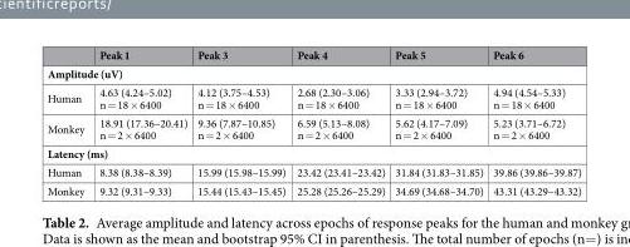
<table><thead><tr><td></td><td>Peak 1</td><td>Peak 3</td><td>Peak 4</td><td>Peak 5</td><td>Peak 6</td></tr></thead><tbody><tr><td colspan="6">Amplitude (uV)</td></tr><tr><td>Human</td><td>4.63 (4.24–5.02) n = 18 × 6400</td><td>4.12 (3.75–4.53) n = 18 × 6400</td><td>2.68 (2.30–3.06) n = 18 × 6400</td><td>3.33 (2.94–3.72) n = 18 × 6400</td><td>4.94 (4.54–5.33) n = 18 × 6400</td></tr><tr><td>Monkey</td><td>18.91 (17.36–20.41) n = 2 × 6400</td><td>9.36 (7.87–10.85) n = 2 × 6400</td><td>6.59 (5.13–8.08) n = 2 × 6400</td><td>5.62 (4.17–7.09) n = 2 × 6400</td><td>5.23 (3.71–6.72) n = 2 × 6400</td></tr><tr><td colspan="6">Latency (ms)</td></tr><tr><td>Human</td><td>8.38 (8.38–8.39)</td><td>15.99 (15.98–15.99)</td><td>23.42 (23.41–23.42)</td><td>31.84 (31.83–31.85)</td><td>39.86 (39.86–39.87)</td></tr><tr><td>Monkey</td><td>9.32 (9.31–9.33)</td><td>15.44 (15.43–15.45)</td><td>25.28 (25.26–25.29)</td><td>34.69 (34.68–34.70)</td><td>43.31 (43.29–43.32)</td></tr></tbody></table>